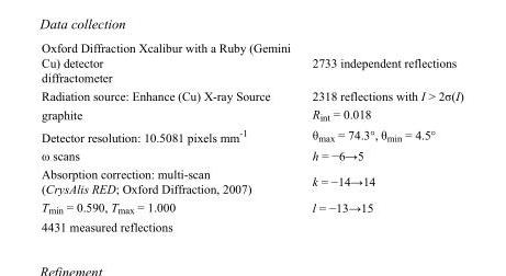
<table><tbody><tr><td>Oxford Diffraction Xcalibur with a Ruby (Gemini Cu) detector diffractometer</td><td>2733 independent reflections</td></tr><tr><td>Radiation source: Enhance (Cu) X-ray Source</td><td>2318 reflections with I &gt; 2σ(I)</td></tr><tr><td>graphite</td><td>R<sub>int</sub> = 0.018</td></tr><tr><td>Detector resolution: 10.5081 pixels mm<sup>-1</sup></td><td>θ<sub>max</sub> = 74.3°, θ<sub>min</sub> = 4.5°</td></tr><tr><td>ω scans</td><td>h = −6→5</td></tr><tr><td>Absorption correction: multi-scan (CrysAlis RED; Oxford Diffraction, 2007)</td><td>k = −14→14</td></tr><tr><td>T<sub>min</sub> = 0.590, T<sub>max</sub> = 1.000</td><td>l = −13→15</td></tr><tr><td>4431 measured reflections</td><td></td></tr></tbody></table>